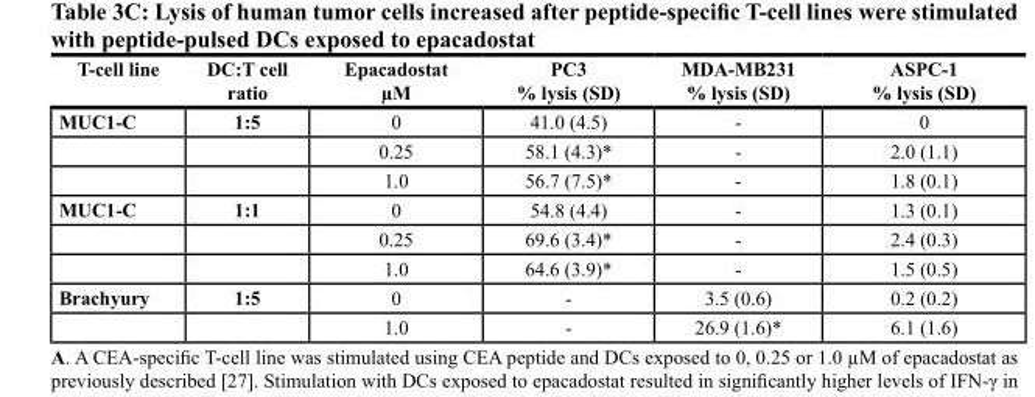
<table><thead><tr><td>T-cell line</td><td>DC:T cell ratio</td><td>Epacadostat µM</td><td>PC3 % lysis (SD)</td><td>MDA-MB231 % lysis (SD)</td><td>ASPC-1 % lysis (SD)</td></tr></thead><tbody><tr><td rowspan="3">MUC1-C</td><td>1:5</td><td>0</td><td>41.0 (4.5)</td><td>-</td><td>0</td></tr><tr><td></td><td>0.25</td><td>58.1 (4.3)*</td><td>-</td><td>2.0 (1.1)</td></tr><tr><td></td><td>1.0</td><td>56.7 (7.5)*</td><td>-</td><td>1.8 (0.1)</td></tr><tr><td rowspan="3">MUC1-C</td><td>1:1</td><td>0</td><td>54.8 (4.4)</td><td>-</td><td>1.3 (0.1)</td></tr><tr><td></td><td>0.25</td><td>69.6 (3.4)*</td><td>-</td><td>2.4 (0.3)</td></tr><tr><td></td><td>1.0</td><td>64.6 (3.9)*</td><td>-</td><td>1.5 (0.5)</td></tr><tr><td rowspan="2">Brachyury</td><td>1:5</td><td>0</td><td>-</td><td>3.5 (0.6)</td><td>0.2 (0.2)</td></tr><tr><td></td><td>1.0</td><td>-</td><td>26.9 (1.6)*</td><td>6.1 (1.6)</td></tr></tbody></table>